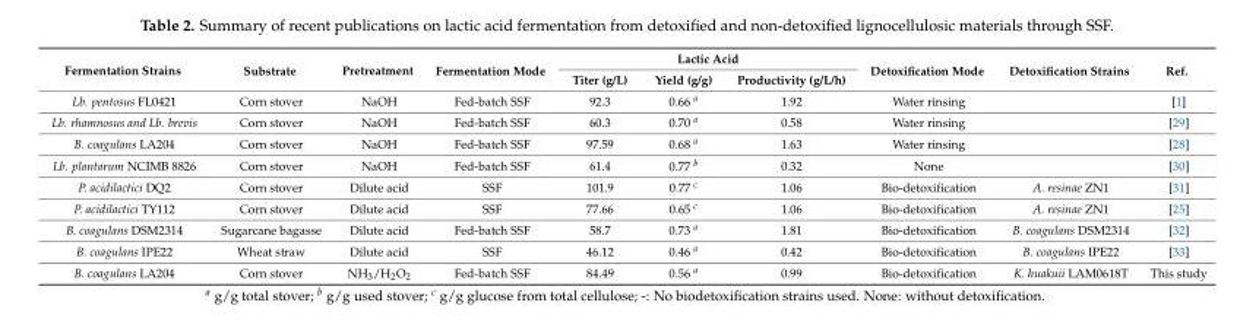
<table><thead><tr><td rowspan="2">Fermentation Strains</td><td rowspan="2">Substrate</td><td rowspan="2">Pretreatment</td><td rowspan="2">Fermentation Mode</td><td colspan="3">Lactic Acid</td><td rowspan="2">Detoxification Mode</td><td rowspan="2">Detoxification Strains</td><td rowspan="2">Ref.</td></tr><tr><td>Titer (g/L)</td><td>Yield (g/g)</td><td>Productivity (g/L/h)</td></tr></thead><tbody><tr><td>Lb. pentosus FL0421</td><td>Corn stover</td><td>NaOH</td><td>Fed-batch SSF</td><td>92.3</td><td>0.66 <sup>a</sup></td><td>1.92</td><td>Water rinsing</td><td></td><td>[1]</td></tr><tr><td>Lb. rhamnosus and Lb. brevis</td><td>Corn stover</td><td>NaOH</td><td>Fed-batch SSF</td><td>60.3</td><td>0.70 <sup>a</sup></td><td>0.58</td><td>Water rinsing</td><td></td><td>[29]</td></tr><tr><td>B. coagulans LA204</td><td>Corn stover</td><td>NaOH</td><td>Fed-batch SSF</td><td>97.59</td><td>0.68 <sup>a</sup></td><td>1.63</td><td>Water rinsing</td><td></td><td>[28]</td></tr><tr><td>Lb. plantarum NCIMB 8826</td><td>Corn stover</td><td>NaOH</td><td>Fed-batch SSF</td><td>61.4</td><td>0.77 <sup>b</sup></td><td>0.32</td><td>None</td><td></td><td>[30]</td></tr><tr><td>P. acidilactici DQ2</td><td>Corn stover</td><td>Dilute acid</td><td>SSF</td><td>101.9</td><td>0.77 <sup>c</sup></td><td>1.06</td><td>Bio-detoxification</td><td>A. resinae ZN1</td><td>[31]</td></tr><tr><td>P. acidilactici TY112</td><td>Corn stover</td><td>Dilute acid</td><td>SSF</td><td>77.66</td><td>0.65 <sup>c</sup></td><td>1.06</td><td>Bio-detoxification</td><td>A. resinae ZN1</td><td>[25]</td></tr><tr><td>B. coagulans DSM2314</td><td>Sugarcane bagasse</td><td>Dilute acid</td><td>Fed-batch SSF</td><td>58.7</td><td>0.73 <sup>a</sup></td><td>1.81</td><td>Bio-detoxification</td><td>B. coagulans DSM2314</td><td>[32]</td></tr><tr><td>B. coagulans IPE22</td><td>Wheat straw</td><td>Dilute acid</td><td>SSF</td><td>46.12</td><td>0.46 <sup>a</sup></td><td>0.42</td><td>Bio-detoxification</td><td>B. coagulans IPE22</td><td>[33]</td></tr><tr><td>B. coagulans LA204</td><td>Corn stover</td><td>NH<sub>3</sub>/H<sub>2</sub>O<sub>2</sub></td><td>Fed-batch SSF</td><td>84.49</td><td>0.56 <sup>a</sup></td><td>0.99</td><td>Bio-detoxification</td><td>K. huakuii LAM0618T</td><td>This study</td></tr></tbody></table>